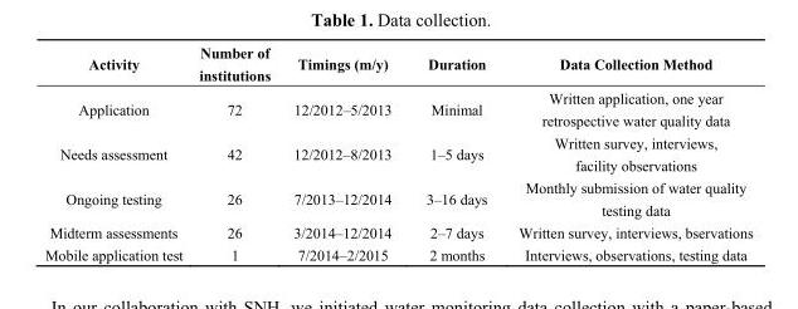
<table><thead><tr><td>Activity</td><td>Number of institutions</td><td>Timings (m/y)</td><td>Duration</td><td>Data Collection Method</td></tr></thead><tbody><tr><td>Application</td><td>72</td><td>12/2012–5/2013</td><td>Minimal</td><td>Written application, one year retrospective water quality data</td></tr><tr><td>Needs assessment</td><td>42</td><td>12/2012–8/2013</td><td>1–5 days</td><td>Written survey, interviews, facility observations</td></tr><tr><td>Ongoing testing</td><td>26</td><td>7/2013–12/2014</td><td>3–16 days</td><td>Monthly submission of water quality testing data</td></tr><tr><td>Midterm assessments</td><td>26</td><td>3/2014–12/2014</td><td>2–7 days</td><td>Written survey, interviews, bservations</td></tr><tr><td>Mobile application test</td><td>1</td><td>7/2014–2/2015</td><td>2 months</td><td>Interviews, observations, testing data</td></tr></tbody></table>